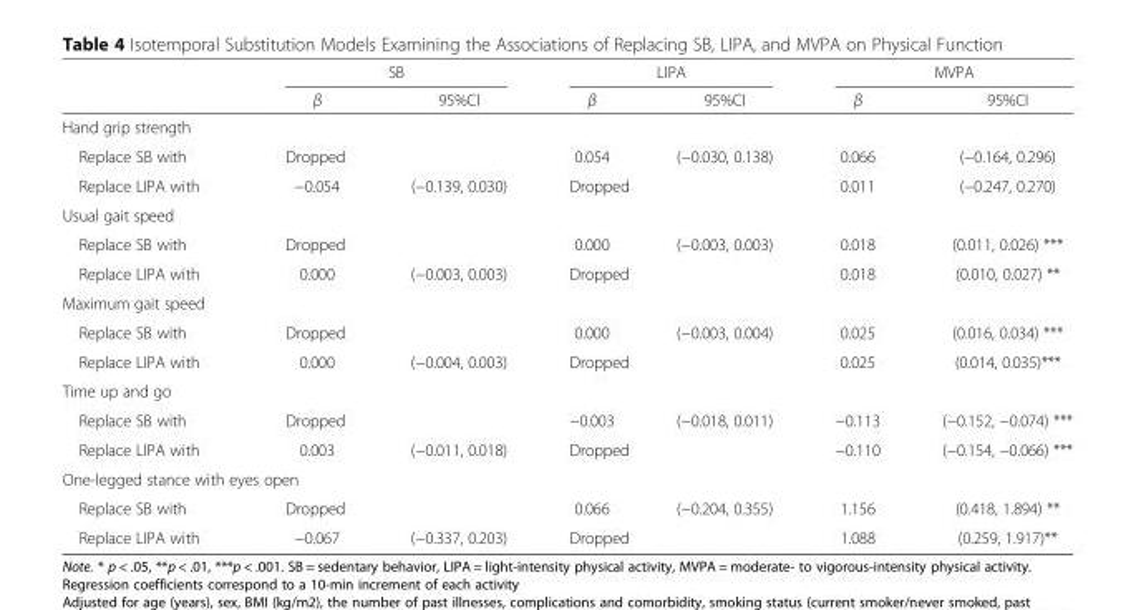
<table><thead><tr><td rowspan="2"></td><td colspan="2">SB</td><td colspan="2">LIPA</td><td colspan="2">MVPA</td></tr><tr><td>β</td><td>95%CI</td><td>β</td><td>95%CI</td><td>β</td><td>95%CI</td></tr></thead><tbody><tr><td colspan="7">Hand grip strength</td></tr><tr><td>Replace SB with</td><td colspan="2">Dropped</td><td>0.054</td><td>(−0.030, 0.138)</td><td>0.066</td><td>(−0.164, 0.296)</td></tr><tr><td>Replace LIPA with</td><td>−0.054</td><td>(−0.139, 0.030)</td><td colspan="2">Dropped</td><td>0.011</td><td>(−0.247, 0.270)</td></tr><tr><td colspan="7">Usual gait speed</td></tr><tr><td>Replace SB with</td><td colspan="2">Dropped</td><td>0.000</td><td>(−0.003, 0.003)</td><td>0.018</td><td>(0.011, 0.026) ***</td></tr><tr><td>Replace LIPA with</td><td>0.000</td><td>(−0.003, 0.003)</td><td colspan="2">Dropped</td><td>0.018</td><td>(0.010, 0.027) **</td></tr><tr><td colspan="7">Maximum gait speed</td></tr><tr><td>Replace SB with</td><td colspan="2">Dropped</td><td>0.000</td><td>(−0.003, 0.004)</td><td>0.025</td><td>(0.016, 0.034) ***</td></tr><tr><td>Replace LIPA with</td><td>0.000</td><td>(−0.004, 0.003)</td><td colspan="2">Dropped</td><td>0.025</td><td>(0.014, 0.035)***</td></tr><tr><td colspan="7">Time up and go</td></tr><tr><td>Replace SB with</td><td colspan="2">Dropped</td><td>−0.003</td><td>(−0.018, 0.011)</td><td>−0.113</td><td>(−0.152, −0.074) ***</td></tr><tr><td>Replace LIPA with</td><td>0.003</td><td>(−0.011, 0.018)</td><td colspan="2">Dropped</td><td>−0.110</td><td>(−0.154, −0.066) ***</td></tr><tr><td colspan="7">One-legged stance with eyes open</td></tr><tr><td>Replace SB with</td><td colspan="2">Dropped</td><td>0.066</td><td>(−0.204, 0.355)</td><td>1.156</td><td>(0.418, 1.894) **</td></tr><tr><td>Replace LIPA with</td><td>−0.067</td><td>(−0.337, 0.203)</td><td colspan="2">Dropped</td><td>1.088</td><td>(0.259, 1.917)**</td></tr></tbody></table>